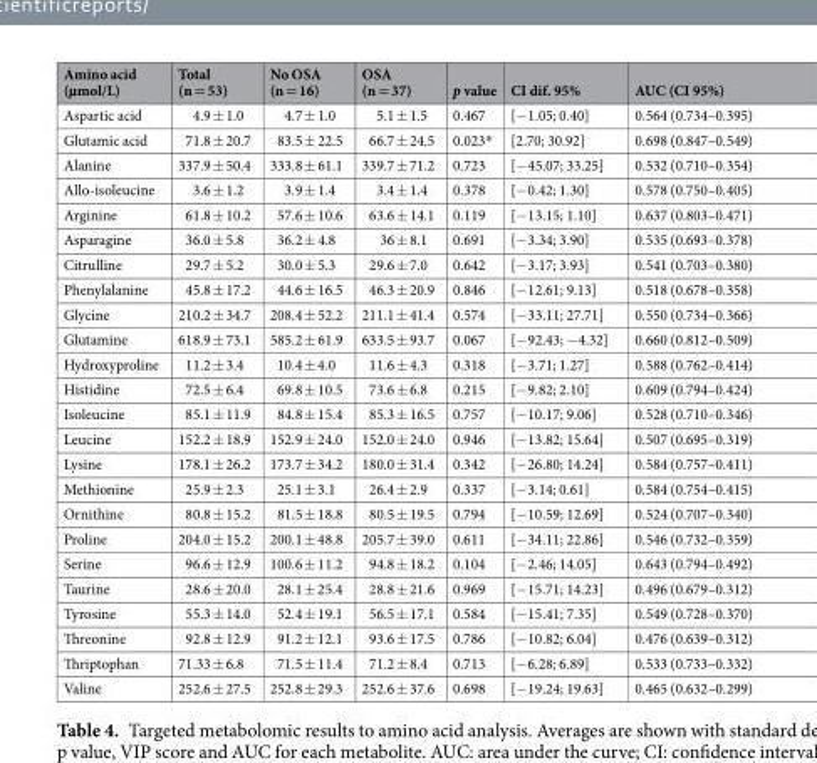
<table><thead><tr><td>Amino acid (µmol/L)</td><td>Total (n = 53)</td><td>No OSA (n = 16)</td><td>OSA (n = 37)</td><td>p value</td><td>CI dif. 95%</td><td>AUC (CI 95%)</td></tr></thead><tbody><tr><td>Aspartic acid</td><td>4.9 ± 1.0</td><td>4.7 ± 1.0</td><td>5.1 ± 1.5</td><td>0.467</td><td>[−1.05; 0.40]</td><td>0.564 (0.734–0.395)</td></tr><tr><td>Glutamic acid</td><td>71.8 ± 20.7</td><td>83.5 ± 22.5</td><td>66.7 ± 24.5</td><td>0.023*</td><td>[2.70; 30.92]</td><td>0.698 (0.847–0.549)</td></tr><tr><td>Alanine</td><td>337.9 ± 50.4</td><td>333.8 ± 61.1</td><td>339.7 ± 71.2</td><td>0.723</td><td>[−45.07; 33.25]</td><td>0.532 (0.710–0.354)</td></tr><tr><td>Allo-isoleucine</td><td>3.6 ± 1.2</td><td>3.9 ± 1.4</td><td>3.4 ± 1.4</td><td>0.378</td><td>[−0.42; 1.30]</td><td>0.578 (0.750–0.405)</td></tr><tr><td>Arginine</td><td>61.8 ± 10.2</td><td>57.6 ± 10.6</td><td>63.6 ± 14.1</td><td>0.119</td><td>[−13.15; 1.10]</td><td>0.637 (0.803–0.471)</td></tr><tr><td>Asparagine</td><td>36.0 ± 5.8</td><td>36.2 ± 4.8</td><td>36 ± 8.1</td><td>0.691</td><td>[−3.34; 3.90]</td><td>0.535 (0.693–0.378)</td></tr><tr><td>Citrulline</td><td>29.7 ± 5.2</td><td>30.0 ± 5.3</td><td>29.6 ± 7.0</td><td>0.642</td><td>[−3.17; 3.93]</td><td>0.541 (0.703–0.380)</td></tr><tr><td>Phenylalanine</td><td>45.8 ± 17.2</td><td>44.6 ± 16.5</td><td>46.3 ± 20.9</td><td>0.846</td><td>[−12.61; 9.13]</td><td>0.518 (0.678–0.358)</td></tr><tr><td>Glycine</td><td>210.2 ± 34.7</td><td>208.4 ± 52.2</td><td>211.1 ± 41.4</td><td>0.574</td><td>[−33.11; 27.71]</td><td>0.550 (0.734–0.366)</td></tr><tr><td>Glutamine</td><td>618.9 ± 73.1</td><td>585.2 ± 61.9</td><td>633.5 ± 93.7</td><td>0.067</td><td>[−92.43; −4.32]</td><td>0.660 (0.812–0.509)</td></tr><tr><td>Hydroxyproline</td><td>11.2 ± 3.4</td><td>10.4 ± 4.0</td><td>11.6 ± 4.3</td><td>0.318</td><td>[−3.71; 1.27]</td><td>0.588 (0.762–0.414)</td></tr><tr><td>Histidine</td><td>72.5 ± 6.4</td><td>69.8 ± 10.5</td><td>73.6 ± 6.8</td><td>0.215</td><td>[−9.82; 2.10]</td><td>0.609 (0.794–0.424)</td></tr><tr><td>Isoleucine</td><td>85.1 ± 11.9</td><td>84.8 ± 15.4</td><td>85.3 ± 16.5</td><td>0.757</td><td>[−10.17; 9.06]</td><td>0.528 (0.710–0.346)</td></tr><tr><td>Leucine</td><td>152.2 ± 18.9</td><td>152.9 ± 24.0</td><td>152.0 ± 24.0</td><td>0.946</td><td>[−13.82; 15.64]</td><td>0.507 (0.695–0.319)</td></tr><tr><td>Lysine</td><td>178.1 ± 26.2</td><td>173.7 ± 34.2</td><td>180.0 ± 31.4</td><td>0.342</td><td>[−26.80; 14.24]</td><td>0.584 (0.757–0.411)</td></tr><tr><td>Methionine</td><td>25.9 ± 2.3</td><td>25.1 ± 3.1</td><td>26.4 ± 2.9</td><td>0.337</td><td>[−3.14; 0.61]</td><td>0.584 (0.754–0.415)</td></tr><tr><td>Ornithine</td><td>80.8 ± 15.2</td><td>81.5 ± 18.8</td><td>80.5 ± 19.5</td><td>0.794</td><td>[−10.59; 12.69]</td><td>0.524 (0.707–0.340)</td></tr><tr><td>Proline</td><td>204.0 ± 15.2</td><td>200.1 ± 48.8</td><td>205.7 ± 39.0</td><td>0.611</td><td>[−34.11; 22.86]</td><td>0.546 (0.732–0.359)</td></tr><tr><td>Serine</td><td>96.6 ± 12.9</td><td>100.6 ± 11.2</td><td>94.8 ± 18.2</td><td>0.104</td><td>[−2.46; 14.05]</td><td>0.643 (0.794–0.492)</td></tr><tr><td>Taurine</td><td>28.6 ± 20.0</td><td>28.1 ± 25.4</td><td>28.8 ± 21.6</td><td>0.969</td><td>[−15.71; 14.23]</td><td>0.496 (0.679–0.312)</td></tr><tr><td>Tyrosine</td><td>55.3 ± 14.0</td><td>52.4 ± 19.1</td><td>56.5 ± 17.1</td><td>0.584</td><td>[−15.41; 7.35]</td><td>0.549 (0.728–0.370)</td></tr><tr><td>Threonine</td><td>92.8 ± 12.9</td><td>91.2 ± 12.1</td><td>93.6 ± 17.5</td><td>0.786</td><td>[−10.82; 6.04]</td><td>0.476 (0.639–0.312)</td></tr><tr><td>Thriptophan</td><td>71.33 ± 6.8</td><td>71.5 ± 11.4</td><td>71.2 ± 8.4</td><td>0.713</td><td>[−6.28; 6.89]</td><td>0.533 (0.733–0.332)</td></tr><tr><td>Valine</td><td>252.6 ± 27.5</td><td>252.8 ± 29.3</td><td>252.6 ± 37.6</td><td>0.698</td><td>[−19.24; 19.63]</td><td>0.465 (0.632–0.299)</td></tr></tbody></table>